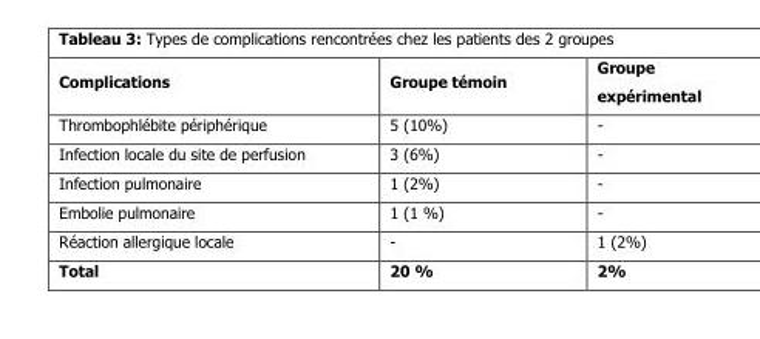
<table><thead><tr><td>Complications</td><td>Groupe témoin</td><td>Groupe expérimental</td></tr></thead><tbody><tr><td>Thrombophlébite périphérique</td><td>5 (10%)</td><td>-</td></tr><tr><td>Infection locale du site de perfusion</td><td>3 (6%)</td><td>-</td></tr><tr><td>Infection pulmonaire</td><td>1 (2%)</td><td>-</td></tr><tr><td>Embolie pulmonaire</td><td>1 (1 %)</td><td>-</td></tr><tr><td>Réaction allergique locale</td><td>-</td><td>1 (2%)</td></tr><tr><td>Total</td><td>20 %</td><td>2%</td></tr></tbody></table>